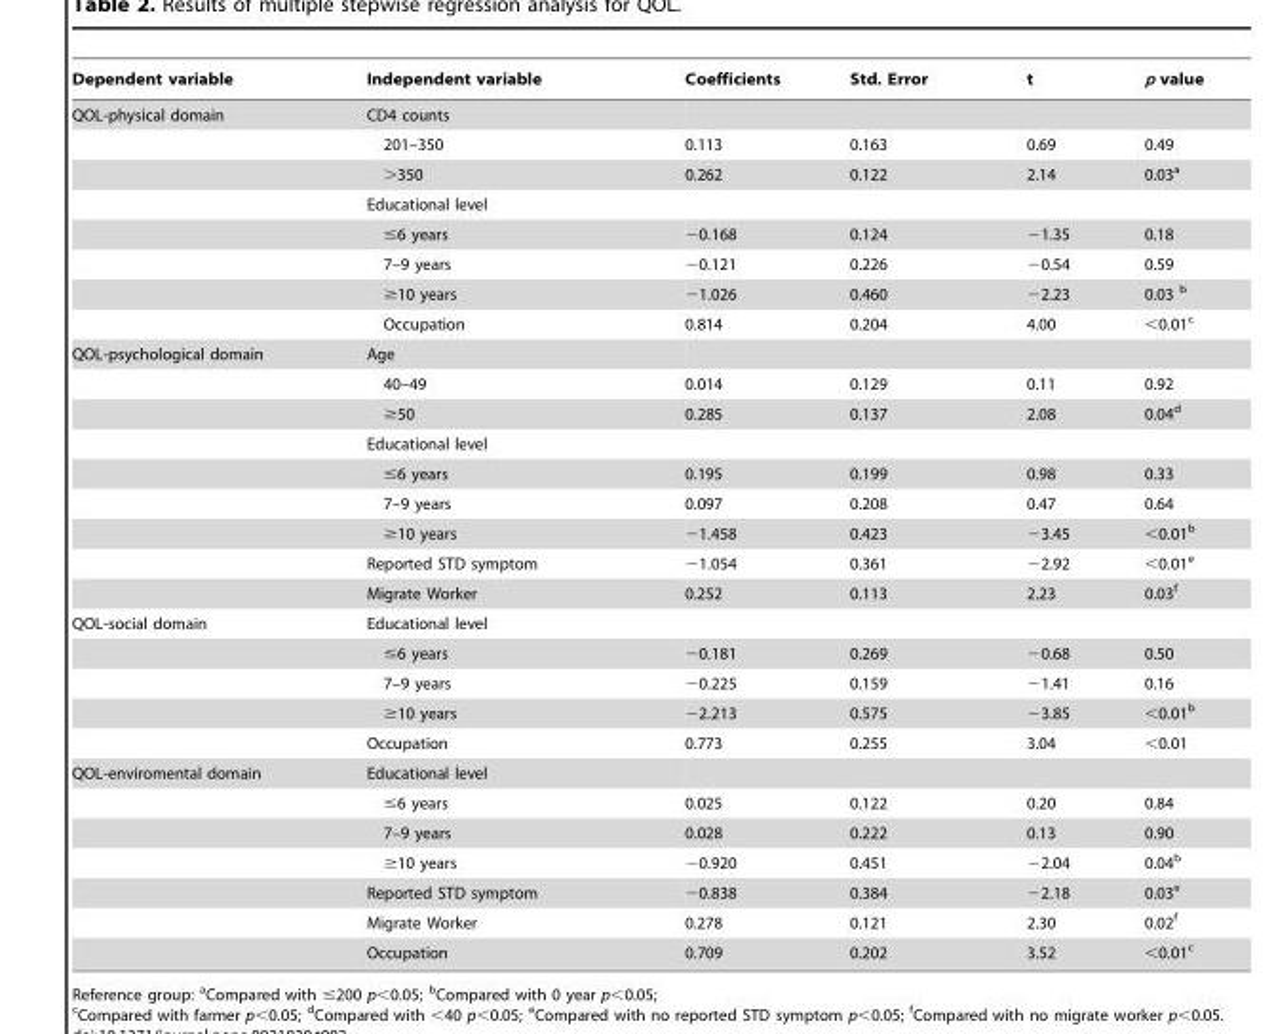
<table><thead><tr><td>Dependent variable</td><td>Independent variable</td><td>Coefficients</td><td>Std. Error</td><td>t</td><td>p value</td></tr></thead><tbody><tr><td rowspan="8">QOL-physical domain</td><td>CD4 counts</td><td></td><td></td><td></td><td></td></tr><tr><td>201–350</td><td>0.113</td><td>0.163</td><td>0.69</td><td>0.49</td></tr><tr><td>&gt;350</td><td>0.262</td><td>0.122</td><td>2.14</td><td>0.03<sup>a</sup></td></tr><tr><td>Educational level</td><td></td><td></td><td></td><td></td></tr><tr><td>≤6 years</td><td>−0.168</td><td>0.124</td><td>−1.35</td><td>0.18</td></tr><tr><td>7–9 years</td><td>−0.121</td><td>0.226</td><td>−0.54</td><td>0.59</td></tr><tr><td>≥10 years</td><td>−1.026</td><td>0.460</td><td>−2.23</td><td>0.03 <sup>b</sup></td></tr><tr><td>Occupation</td><td>0.814</td><td>0.204</td><td>4.00</td><td>&lt;0.01<sup>c</sup></td></tr><tr><td rowspan="9">QOL-psychological domain</td><td>Age</td><td></td><td></td><td></td><td></td></tr><tr><td>40–49</td><td>0.014</td><td>0.129</td><td>0.11</td><td>0.92</td></tr><tr><td>≥50</td><td>0.285</td><td>0.137</td><td>2.08</td><td>0.04<sup>d</sup></td></tr><tr><td>Educational level</td><td></td><td></td><td></td><td></td></tr><tr><td>≤6 years</td><td>0.195</td><td>0.199</td><td>0.98</td><td>0.33</td></tr><tr><td>7–9 years</td><td>0.097</td><td>0.208</td><td>0.47</td><td>0.64</td></tr><tr><td>≥10 years</td><td>−1.458</td><td>0.423</td><td>−3.45</td><td>&lt;0.01<sup>b</sup></td></tr><tr><td>Reported STD symptom</td><td>−1.054</td><td>0.361</td><td>−2.92</td><td>&lt;0.01<sup>e</sup></td></tr><tr><td>Migrate Worker</td><td>0.252</td><td>0.113</td><td>2.23</td><td>0.03<sup>f</sup></td></tr><tr><td rowspan="5">QOL-social domain</td><td>Educational level</td><td></td><td></td><td></td><td></td></tr><tr><td>≤6 years</td><td>−0.181</td><td>0.269</td><td>−0.68</td><td>0.50</td></tr><tr><td>7–9 years</td><td>−0.225</td><td>0.159</td><td>−1.41</td><td>0.16</td></tr><tr><td>≥10 years</td><td>−2.213</td><td>0.575</td><td>−3.85</td><td>&lt;0.01<sup>b</sup></td></tr><tr><td>Occupation</td><td>0.773</td><td>0.255</td><td>3.04</td><td>&lt;0.01</td></tr><tr><td rowspan="7">QOL-enviromental domain</td><td>Educational level</td><td></td><td></td><td></td><td></td></tr><tr><td>≤6 years</td><td>0.025</td><td>0.122</td><td>0.20</td><td>0.84</td></tr><tr><td>7–9 years</td><td>0.028</td><td>0.222</td><td>0.13</td><td>0.90</td></tr><tr><td>≥10 years</td><td>−0.920</td><td>0.451</td><td>−2.04</td><td>0.04<sup>b</sup></td></tr><tr><td>Reported STD symptom</td><td>−0.838</td><td>0.384</td><td>−2.18</td><td>0.03<sup>e</sup></td></tr><tr><td>Migrate Worker</td><td>0.278</td><td>0.121</td><td>2.30</td><td>0.02<sup>f</sup></td></tr><tr><td>Occupation</td><td>0.709</td><td>0.202</td><td>3.52</td><td>&lt;0.01<sup>c</sup></td></tr></tbody></table>